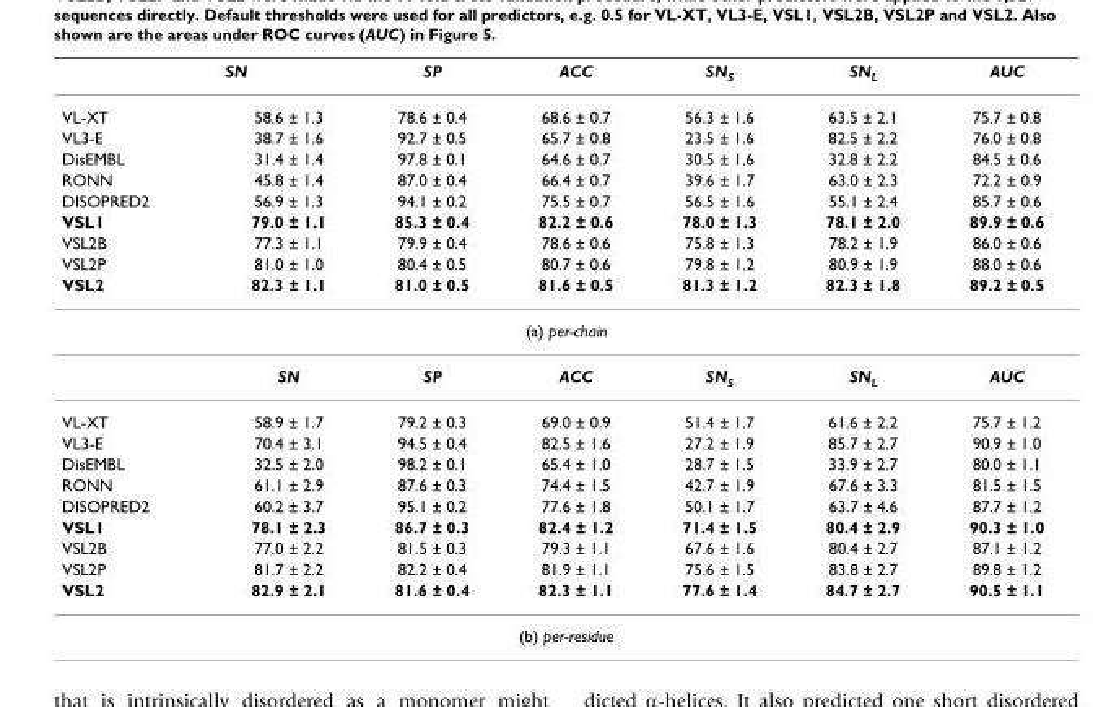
<table><thead><tr><td></td><td>SN</td><td>SP</td><td>ACC</td><td>SNS</td><td>SNL</td><td>AUC</td></tr></thead><tbody><tr><td>VL-XT</td><td>58.6 ± 1.3</td><td>78.6 ± 0.4</td><td>68.6 ± 0.7</td><td>56.3 ± 1.6</td><td>63.5 ± 2.1</td><td>75.7 ± 0.8</td></tr><tr><td>VL3-E</td><td>38.7 ± 1.6</td><td>92.7 ± 0.5</td><td>65.7 ± 0.8</td><td>23.5 ± 1.6</td><td>82.5 ± 2.2</td><td>76.0 ± 0.8</td></tr><tr><td>DisEMBL</td><td>31.4 ± 1.4</td><td>97.8 ± 0.1</td><td>64.6 ± 0.7</td><td>30.5 ± 1.6</td><td>32.8 ± 2.2</td><td>84.5 ± 0.6</td></tr><tr><td>RONN</td><td>45.8 ± 1.4</td><td>87.0 ± 0.4</td><td>66.4 ± 0.7</td><td>39.6 ± 1.7</td><td>63.0 ± 2.3</td><td>72.2 ± 0.9</td></tr><tr><td>DISOPRED2</td><td>56.9 ± 1.3</td><td>94.1 ± 0.2</td><td>75.5 ± 0.7</td><td>56.5 ± 1.6</td><td>55.1 ± 2.4</td><td>85.7 ± 0.6</td></tr><tr><td>VSL1</td><td>79.0 ± 1.1</td><td>85.3 ± 0.4</td><td>82.2 ± 0.6</td><td>78.0 ± 1.3</td><td>78.1 ± 2.0</td><td>89.9 ± 0.6</td></tr><tr><td>VSL2B</td><td>77.3 ± 1.1</td><td>79.9 ± 0.4</td><td>78.6 ± 0.6</td><td>75.8 ± 1.3</td><td>78.2 ± 1.9</td><td>86.0 ± 0.6</td></tr><tr><td>VSL2P</td><td>81.0 ± 1.0</td><td>80.4 ± 0.5</td><td>80.7 ± 0.6</td><td>79.8 ± 1.2</td><td>80.9 ± 1.9</td><td>88.0 ± 0.6</td></tr><tr><td>VSL2</td><td>82.3 ± 1.1</td><td>81.0 ± 0.5</td><td>81.6 ± 0.5</td><td>81.3 ± 1.2</td><td>82.3 ± 1.8</td><td>89.2 ± 0.5</td></tr><tr><td colspan="7">(a) per-chain</td></tr><tr><td></td><td>SN</td><td>SP</td><td>ACC</td><td>SNS</td><td>SNL</td><td>AUC</td></tr><tr><td>VL-XT</td><td>58.9 ± 1.7</td><td>79.2 ± 0.3</td><td>69.0 ± 0.9</td><td>51.4 ± 1.7</td><td>61.6 ± 2.2</td><td>75.7 ± 1.2</td></tr><tr><td>VL3-E</td><td>70.4 ± 3.1</td><td>94.5 ± 0.4</td><td>82.5 ± 1.6</td><td>27.2 ± 1.9</td><td>85.7 ± 2.7</td><td>90.9 ± 1.0</td></tr><tr><td>DisEMBL</td><td>32.5 ± 2.0</td><td>98.2 ± 0.1</td><td>65.4 ± 1.0</td><td>28.7 ± 1.5</td><td>33.9 ± 2.7</td><td>80.0 ± 1.1</td></tr><tr><td>RONN</td><td>61.1 ± 2.9</td><td>87.6 ± 0.3</td><td>74.4 ± 1.5</td><td>42.7 ± 1.9</td><td>67.6 ± 3.3</td><td>81.5 ± 1.5</td></tr><tr><td>DISOPRED2</td><td>60.2 ± 3.7</td><td>95.1 ± 0.2</td><td>77.6 ± 1.8</td><td>50.1 ± 1.7</td><td>63.7 ± 4.6</td><td>87.7 ± 1.2</td></tr><tr><td>VSL1</td><td>78.1 ± 2.3</td><td>86.7 ± 0.3</td><td>82.4 ± 1.2</td><td>71.4 ± 1.5</td><td>80.4 ± 2.9</td><td>90.3 ± 1.0</td></tr><tr><td>VSL2B</td><td>77.0 ± 2.2</td><td>81.5 ± 0.3</td><td>79.3 ± 1.1</td><td>67.6 ± 1.6</td><td>80.4 ± 2.7</td><td>87.1 ± 1.2</td></tr><tr><td>VSL2P</td><td>81.7 ± 2.2</td><td>82.2 ± 0.4</td><td>81.9 ± 1.1</td><td>75.6 ± 1.5</td><td>83.8 ± 2.7</td><td>89.8 ± 1.2</td></tr><tr><td>VSL2</td><td>82.9 ± 2.1</td><td>81.6 ± 0.4</td><td>82.3 ± 1.1</td><td>77.6 ± 1.4</td><td>84.7 ± 2.7</td><td>90.5 ± 1.1</td></tr><tr><td colspan="7">(b) per-residue</td></tr></tbody></table>